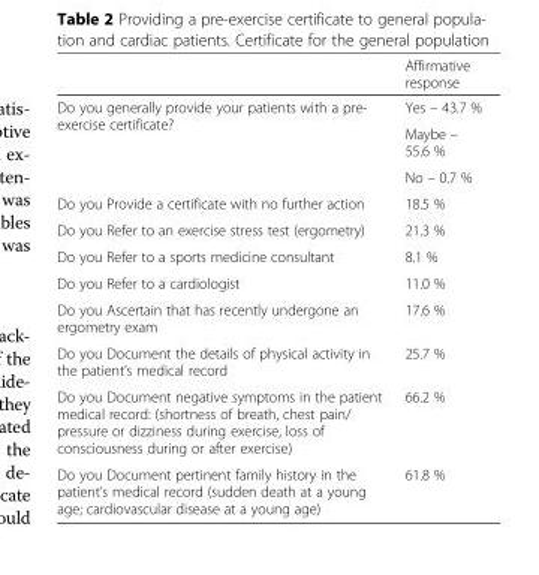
<table><thead><tr><td></td><td>Affirmative response</td></tr></thead><tbody><tr><td rowspan="3">Do you generally provide your patients with a pre- exercise certificate?</td><td>Yes – 43.7 %</td></tr><tr><td>Maybe – 55.6 %</td></tr><tr><td>No – 0.7 %</td></tr><tr><td>Do you Provide a certificate with no further action</td><td>18.5 %</td></tr><tr><td>Do you Refer to an exercise stress test (ergometry)</td><td>21.3 %</td></tr><tr><td>Do you Refer to a sports medicine consultant</td><td>8.1 %</td></tr><tr><td>Do you Refer to a cardiologist</td><td>11.0 %</td></tr><tr><td>Do you Ascertain that has recently undergone an ergometry exam</td><td>17.6 %</td></tr><tr><td>Do you Document the details of physical activity in the patient’s medical record</td><td>25.7 %</td></tr><tr><td>Do you Document negative symptoms in the patient medical record: (shortness of breath, chest pain/ pressure or dizziness during exercise, loss of consciousness during or after exercise)</td><td>66.2 %</td></tr><tr><td>Do you Document pertinent family history in the patient’s medical record (sudden death at a young age; cardiovascular disease at a young age)</td><td>61.8 %</td></tr></tbody></table>